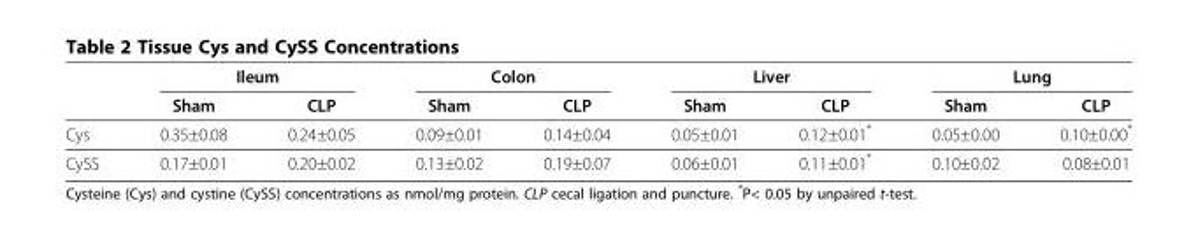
<table><thead><tr><td rowspan="2"></td><td colspan="2">Ileum</td><td colspan="2">Colon</td><td colspan="2">Liver</td><td colspan="2">Lung</td></tr><tr><td>Sham</td><td>CLP</td><td>Sham</td><td>CLP</td><td>Sham</td><td>CLP</td><td>Sham</td><td>CLP</td></tr></thead><tbody><tr><td>Cys</td><td>0.35±0.08</td><td>0.24±0.05</td><td>0.09±0.01</td><td>0.14±0.04</td><td>0.05±0.01</td><td>0.12±0.01*</td><td>0.05±0.00</td><td>0.10±0.00*</td></tr><tr><td>CySS</td><td>0.17±0.01</td><td>0.20±0.02</td><td>0.13±0.02</td><td>0.19±0.07</td><td>0.06±0.01</td><td>0.11±0.01*</td><td>0.10±0.02</td><td>0.08±0.01</td></tr></tbody></table>